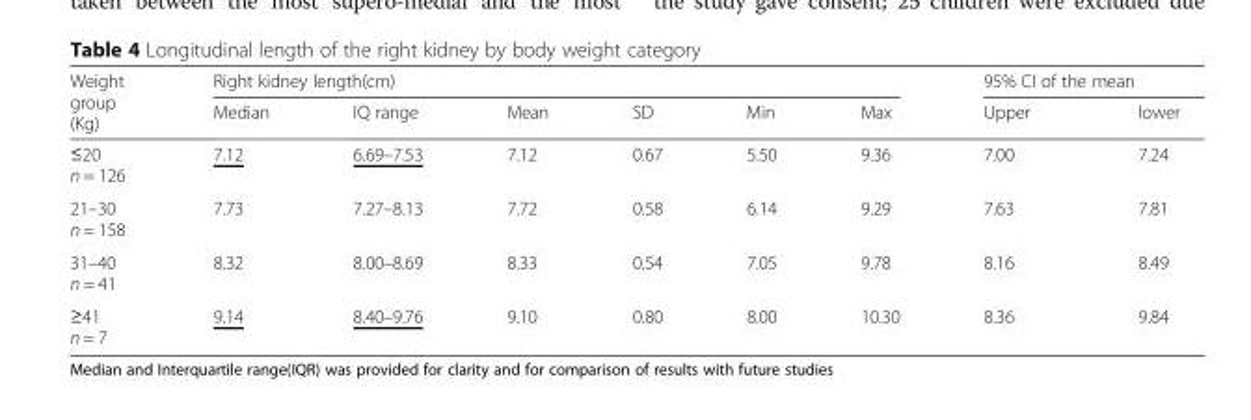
<table><thead><tr><td rowspan="2">Weight group (Kg)</td><td colspan="6">Right kidney length(cm)</td><td colspan="2">95% CI of the mean</td></tr><tr><td>Median</td><td>IQ range</td><td>Mean</td><td>SD</td><td>Min</td><td>Max</td><td>Upper</td><td>lower</td></tr></thead><tbody><tr><td>≤20 n = 126</td><td>7.12</td><td>6.69–7.53</td><td>7.12</td><td>0.67</td><td>5.50</td><td>9.36</td><td>7.00</td><td>7.24</td></tr><tr><td>21–30 n = 158</td><td>7.73</td><td>7.27–8.13</td><td>7.72</td><td>0.58</td><td>6.14</td><td>9.29</td><td>7.63</td><td>7.81</td></tr><tr><td>31–40 n = 41</td><td>8.32</td><td>8.00–8.69</td><td>8.33</td><td>0.54</td><td>7.05</td><td>9.78</td><td>8.16</td><td>8.49</td></tr><tr><td>≥41 n = 7</td><td>9.14</td><td>8.40–9.76</td><td>9.10</td><td>0.80</td><td>8.00</td><td>10.30</td><td>8.36</td><td>9.84</td></tr></tbody></table>